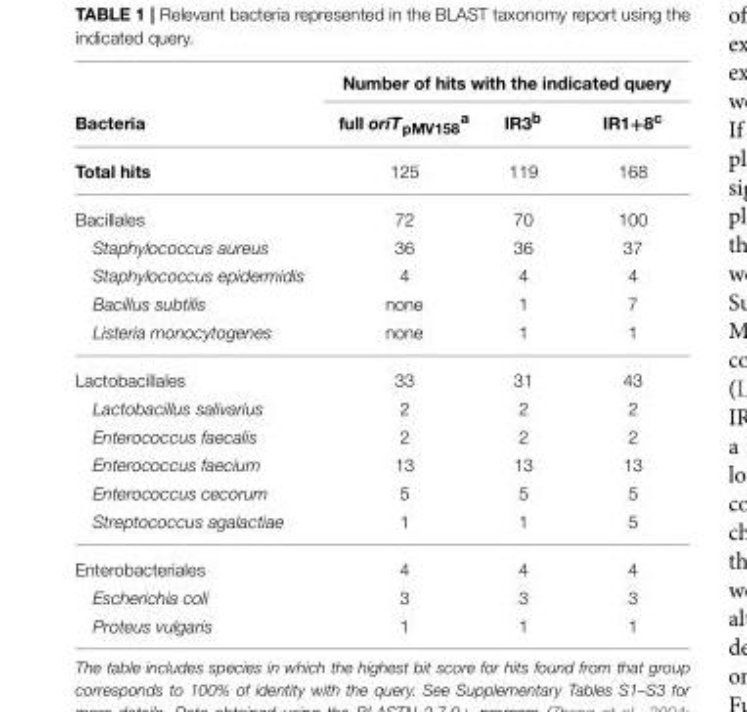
<table><thead><tr><td rowspan="2">Bacteria</td><td colspan="3">Number of hits with the indicated query</td></tr><tr><td>full oriT<sub>pMV158</sub><sup>a</sup></td><td>IR3<sup>b</sup></td><td>IR1+8<sup>c</sup></td></tr></thead><tbody><tr><td>Total hits</td><td>125</td><td>119</td><td>168</td></tr><tr><td>Bacillales</td><td>72</td><td>70</td><td>100</td></tr><tr><td>Staphylococcus aureus</td><td>36</td><td>36</td><td>37</td></tr><tr><td>Staphylococcus epidermidis</td><td>4</td><td>4</td><td>4</td></tr><tr><td>Bacillus subtilis</td><td>none</td><td>1</td><td>7</td></tr><tr><td>Listeria monocytogenes</td><td>none</td><td>1</td><td>1</td></tr><tr><td>Lactobacillales</td><td>33</td><td>31</td><td>43</td></tr><tr><td>Lactobacillus salivarius</td><td>2</td><td>2</td><td>2</td></tr><tr><td>Enterococcus faecalis</td><td>2</td><td>2</td><td>2</td></tr><tr><td>Enterococcus faecium</td><td>13</td><td>13</td><td>13</td></tr><tr><td>Enterococcus cecorum</td><td>5</td><td>5</td><td>5</td></tr><tr><td>Streptococcus agalactiae</td><td>1</td><td>1</td><td>5</td></tr><tr><td>Enterobacteriales</td><td>4</td><td>4</td><td>4</td></tr><tr><td>Escherichia coli</td><td>3</td><td>3</td><td>3</td></tr><tr><td>Proteus vulgaris</td><td>1</td><td>1</td><td>1</td></tr></tbody></table>